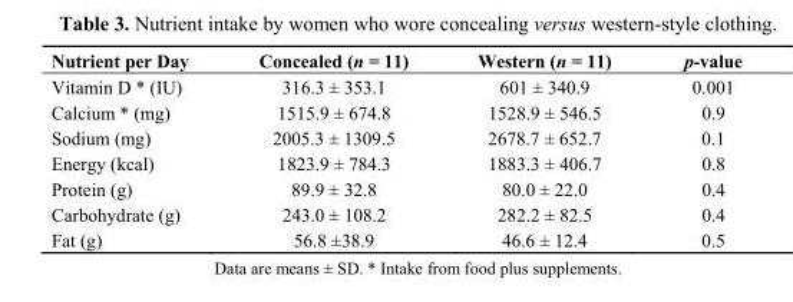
<table><thead><tr><td>Nutrient per Day</td><td>Concealed (n = 11)</td><td>Western (n = 11)</td><td>p-value</td></tr></thead><tbody><tr><td>Vitamin D * (IU)</td><td>316.3 ± 353.1</td><td>601 ± 340.9</td><td>0.001</td></tr><tr><td>Calcium * (mg)</td><td>1515.9 ± 674.8</td><td>1528.9 ± 546.5</td><td>0.9</td></tr><tr><td>Sodium (mg)</td><td>2005.3 ± 1309.5</td><td>2678.7 ± 652.7</td><td>0.1</td></tr><tr><td>Energy (kcal)</td><td>1823.9 ± 784.3</td><td>1883.3 ± 406.7</td><td>0.8</td></tr><tr><td>Protein (g)</td><td>89.9 ± 32.8</td><td>80.0 ± 22.0</td><td>0.4</td></tr><tr><td>Carbohydrate (g)</td><td>243.0 ± 108.2</td><td>282.2 ± 82.5</td><td>0.4</td></tr><tr><td>Fat (g)</td><td>56.8 ±38.9</td><td>46.6 ± 12.4</td><td>0.5</td></tr></tbody></table>